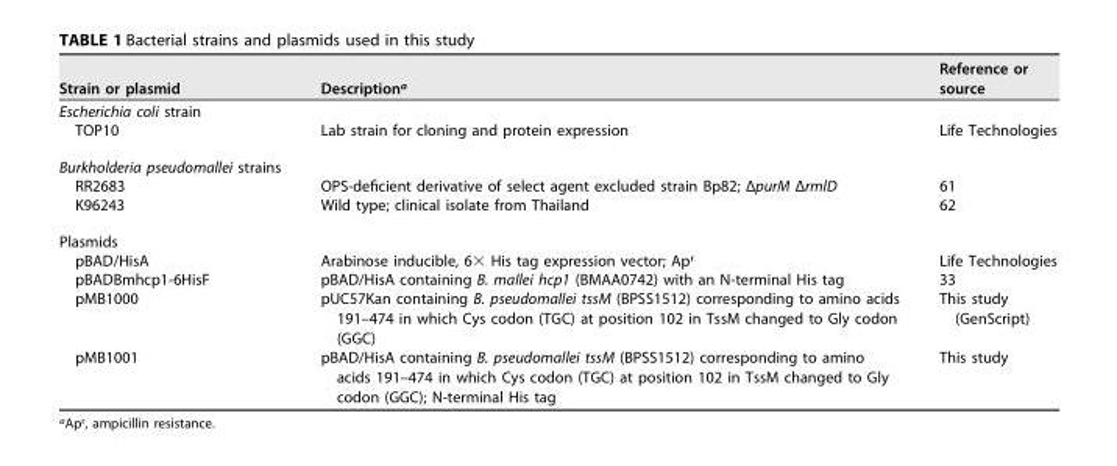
<table><thead><tr><td>Strain or plasmid</td><td>Description<sup>a</sup></td><td>Reference or source</td></tr></thead><tbody><tr><td colspan="3">Escherichia coli strain</td></tr><tr><td>TOP10</td><td>Lab strain for cloning and protein expression</td><td>Life Technologies</td></tr><tr><td colspan="3">Burkholderia pseudomallei strains</td></tr><tr><td>RR2683</td><td>OPS-deficient derivative of select agent excluded strain Bp82; ΔpurM ΔrmlD</td><td>61</td></tr><tr><td>K96243</td><td>Wild type; clinical isolate from Thailand</td><td>62</td></tr><tr><td colspan="3">Plasmids</td></tr><tr><td>pBAD/HisA</td><td>Arabinose inducible, 6× His tag expression vector; Ap<sup>r</sup></td><td>Life Technologies</td></tr><tr><td>pBADBmhcp1-6HisF</td><td>pBAD/HisA containing B. mallei hcp1 (BMAA0742) with an N-terminal His tag</td><td>33</td></tr><tr><td>pMB1000</td><td>pUC57Kan containing B. pseudomallei tssM (BPSS1512) corresponding to amino acids 191–474 in which Cys codon (TGC) at position 102 in TssM changed to Gly codon (GGC)</td><td>This study (GenScript)</td></tr><tr><td>pMB1001</td><td>pBAD/HisA containing B. pseudomallei tssM (BPSS1512) corresponding to amino acids 191–474 in which Cys codon (TGC) at position 102 in TssM changed to Gly codon (GGC); N-terminal His tag</td><td>This study</td></tr></tbody></table>